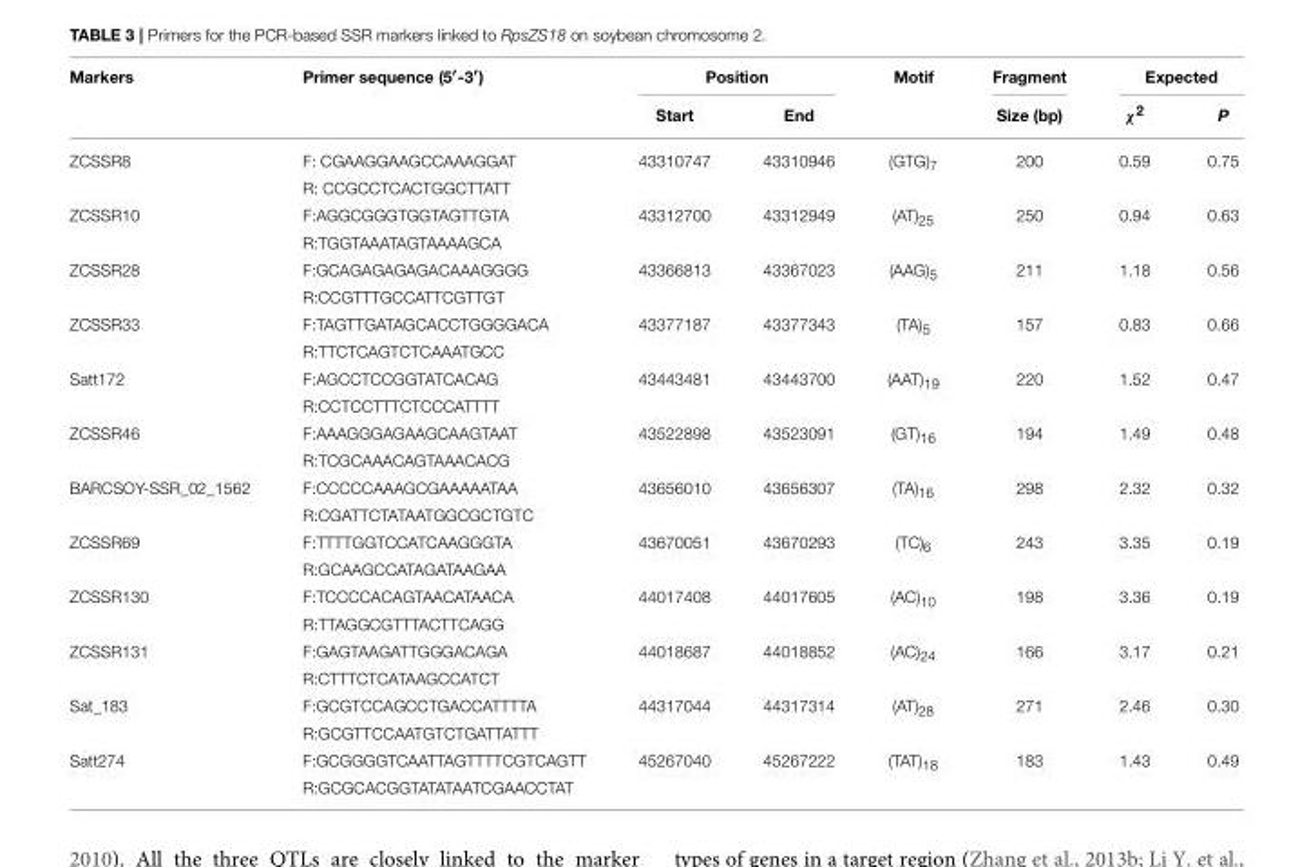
<table><thead><tr><td rowspan="2">Markers</td><td rowspan="2">Primer sequence (5′-3′)</td><td colspan="2">Position</td><td rowspan="2">Motif</td><td rowspan="2">Fragment Size (bp)</td><td colspan="2">Expected</td></tr><tr><td>Start</td><td>End</td><td>χ<sup>2</sup></td><td>P</td></tr></thead><tbody><tr><td rowspan="2">ZCSSR8</td><td>F: CGAAGGAAGCCAAAGGAT</td><td>43310747</td><td>43310946</td><td>(GTG)<sub>7</sub></td><td>200</td><td>0.59</td><td>0.75</td></tr><tr><td>R: CCGCCTCACTGGCTTATT</td><td></td><td></td><td></td><td></td><td></td><td></td></tr><tr><td rowspan="2">ZCSSR10</td><td>F:AGGCGGGTGGTAGTTGTA</td><td>43312700</td><td>43312949</td><td>(AT)<sub>25</sub></td><td>250</td><td>0.94</td><td>0.63</td></tr><tr><td>R:TGGTAAATAGTAAAAGCA</td><td></td><td></td><td></td><td></td><td></td><td></td></tr><tr><td rowspan="2">ZCSSR28</td><td>F:GCAGAGAGAGACAAAGGGG</td><td>43366813</td><td>43367023</td><td>(AAG)<sub>5</sub></td><td>211</td><td>1.18</td><td>0.56</td></tr><tr><td>R:CCGTTTGCCATTCGTTGT</td><td></td><td></td><td></td><td></td><td></td><td></td></tr><tr><td rowspan="2">ZCSSR33</td><td>F:TAGTTGATAGCACCTGGGGACA</td><td>43377187</td><td>43377343</td><td>(TA)<sub>5</sub></td><td>157</td><td>0.83</td><td>0.66</td></tr><tr><td>R:TTCTCAGTCTCAAATGCC</td><td></td><td></td><td></td><td></td><td></td><td></td></tr><tr><td rowspan="2">Satt172</td><td>F:AGCCTCCGGTATCACAG</td><td>43443481</td><td>43443700</td><td>(AAT)<sub>19</sub></td><td>220</td><td>1.52</td><td>0.47</td></tr><tr><td>R:CCTCCTTTCTCCCATTTT</td><td></td><td></td><td></td><td></td><td></td><td></td></tr><tr><td rowspan="2">ZCSSR46</td><td>F:AAAGGGAGAAGCAAGTAAT</td><td>43522898</td><td>43523091</td><td>(GT)<sub>16</sub></td><td>194</td><td>1.49</td><td>0.48</td></tr><tr><td>R:TCGCAAACAGTAAACACG</td><td></td><td></td><td></td><td></td><td></td><td></td></tr><tr><td rowspan="2">BARCSOY-SSR_02_1562</td><td>F:CCCCCAAAGCGAAAAATAA</td><td>43656010</td><td>43656307</td><td>(TA)<sub>16</sub></td><td>298</td><td>2.32</td><td>0.32</td></tr><tr><td>R:CGATTCTATAATGGCGCTGTC</td><td></td><td></td><td></td><td></td><td></td><td></td></tr><tr><td rowspan="2">ZCSSR69</td><td>F:TTTTGGTCCATCAAGGGTA</td><td>43670051</td><td>43670293</td><td>(TC)<sub>6</sub></td><td>243</td><td>3.35</td><td>0.19</td></tr><tr><td>R:GCAAGCCATAGATAAGAA</td><td></td><td></td><td></td><td></td><td></td><td></td></tr><tr><td rowspan="2">ZCSSR130</td><td>F:TCCCCACAGTAACATAACA</td><td>44017408</td><td>44017605</td><td>(AC)<sub>10</sub></td><td>198</td><td>3.36</td><td>0.19</td></tr><tr><td>R:TTAGGCGTTTACTTCAGG</td><td></td><td></td><td></td><td></td><td></td><td></td></tr><tr><td rowspan="2">ZCSSR131</td><td>F:GAGTAAGATTGGGACAGA</td><td>44018687</td><td>44018852</td><td>(AC)<sub>24</sub></td><td>166</td><td>3.17</td><td>0.21</td></tr><tr><td>R:CTTTCTCATAAGCCATCT</td><td></td><td></td><td></td><td></td><td></td><td></td></tr><tr><td rowspan="2">Sat_183</td><td>F:GCGTCCAGCCTGACCATTTTA</td><td>44317044</td><td>44317314</td><td>(AT)<sub>28</sub></td><td>271</td><td>2.46</td><td>0.30</td></tr><tr><td>R:GCGTTCCAATGTCTGATTATTT</td><td></td><td></td><td></td><td></td><td></td><td></td></tr><tr><td rowspan="2">Satt274</td><td>F:GCGGGGTCAATTAGTTTTCGTCAGTT</td><td>45267040</td><td>45267222</td><td>(TAT)<sub>18</sub></td><td>183</td><td>1.43</td><td>0.49</td></tr><tr><td>R:GCGCACGGTATATAATCGAACCTAT</td><td></td><td></td><td></td><td></td><td></td><td></td></tr></tbody></table>